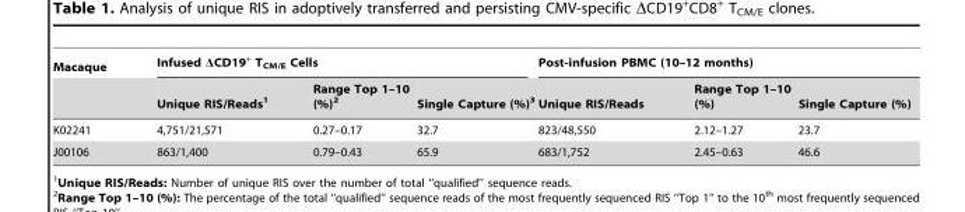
<table><thead><tr><td rowspan="2">Macaque</td><td colspan="3">Infused ΔCD19<sup>+</sup> T<sub>CM/E</sub> Cells</td><td colspan="3">Post-infusion PBMC (10–12 months)</td></tr><tr><td>Unique RIS/Reads<sup>1</sup></td><td>Range Top 1–10 (%)<sup>2</sup></td><td>Single Capture (%)<sup>3</sup></td><td>Unique RIS/Reads</td><td>Range Top 1–10 (%)</td><td>Single Capture (%)</td></tr></thead><tbody><tr><td>K02241</td><td>4,751/21,571</td><td>0.27–0.17</td><td>32.7</td><td>823/48,550</td><td>2.12–1.27</td><td>23.7</td></tr><tr><td>J00106</td><td>863/1,400</td><td>0.79–0.43</td><td>65.9</td><td>683/1,752</td><td>2.45–0.63</td><td>46.6</td></tr></tbody></table>